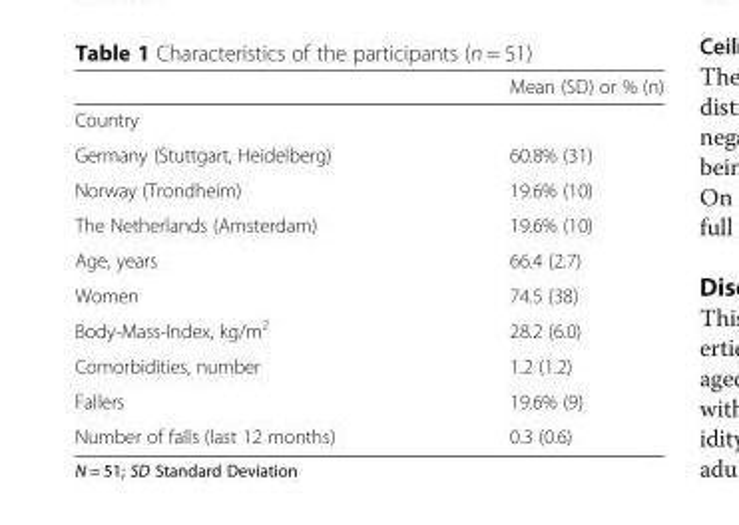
<table><thead><tr><td></td><td>Mean (SD) or % (n)</td></tr></thead><tbody><tr><td colspan="2">Country</td></tr><tr><td>Germany (Stuttgart, Heidelberg)</td><td>60.8% (31)</td></tr><tr><td>Norway (Trondheim)</td><td>19.6% (10)</td></tr><tr><td>The Netherlands (Amsterdam)</td><td>19.6% (10)</td></tr><tr><td>Age, years</td><td>66.4 (2.7)</td></tr><tr><td>Women</td><td>74.5 (38)</td></tr><tr><td>Body-Mass-Index, kg/m<sup>2</sup></td><td>28.2 (6.0)</td></tr><tr><td>Comorbidities, number</td><td>1.2 (1.2)</td></tr><tr><td>Fallers</td><td>19.6% (9)</td></tr><tr><td>Number of falls (last 12 months)</td><td>0.3 (0.6)</td></tr></tbody></table>